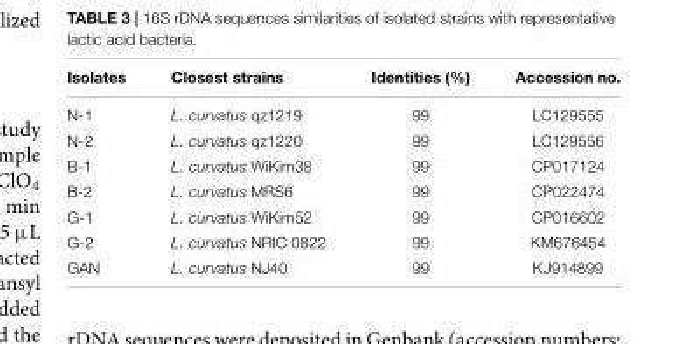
<table><thead><tr><td>Isolates</td><td>Closest strains</td><td>Identities (%)</td><td>Accession no.</td></tr></thead><tbody><tr><td>N-1</td><td>L. curvatus qz1219</td><td>99</td><td>LC129555</td></tr><tr><td>N-2</td><td>L. curvatus qz1220</td><td>99</td><td>LC129556</td></tr><tr><td>B-1</td><td>L. curvatus WiKim38</td><td>99</td><td>CP017124</td></tr><tr><td>B-2</td><td>L. curvatus MRS6</td><td>99</td><td>CP022474</td></tr><tr><td>G-1</td><td>L. curvatus WiKim52</td><td>99</td><td>CP016602</td></tr><tr><td>G-2</td><td>L. curvatus NRIC 0822</td><td>99</td><td>KM676454</td></tr><tr><td>GAN</td><td>L. curvatus NJ40</td><td>99</td><td>KJ914899</td></tr></tbody></table>